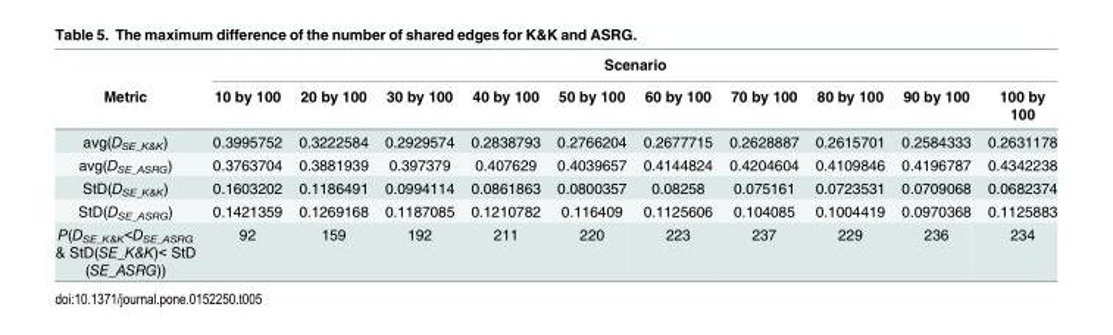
<table><thead><tr><td rowspan="2">Metric</td><td colspan="10">Scenario</td></tr><tr><td>10 by 100</td><td>20 by 100</td><td>30 by 100</td><td>40 by 100</td><td>50 by 100</td><td>60 by 100</td><td>70 by 100</td><td>80 by 100</td><td>90 by 100</td><td>100 by 100</td></tr></thead><tbody><tr><td>avg(D<sub>SE_K&amp;K</sub>)</td><td>0.3995752</td><td>0.3222584</td><td>0.2929574</td><td>0.2838793</td><td>0.2766204</td><td>0.2677715</td><td>0.2628887</td><td>0.2615701</td><td>0.2584333</td><td>0.2631178</td></tr><tr><td>avg(D<sub>SE_ASRG</sub>)</td><td>0.3763704</td><td>0.3881939</td><td>0.397379</td><td>0.407629</td><td>0.4039657</td><td>0.4144824</td><td>0.4204604</td><td>0.4109846</td><td>0.4196787</td><td>0.4342238</td></tr><tr><td>StD(D<sub>SE_K&amp;K</sub>)</td><td>0.1603202</td><td>0.1186491</td><td>0.0994114</td><td>0.0861863</td><td>0.0800357</td><td>0.08258</td><td>0.075161</td><td>0.0723531</td><td>0.0709068</td><td>0.0682374</td></tr><tr><td>StD(D<sub>SE_ASRG</sub>)</td><td>0.1421359</td><td>0.1269168</td><td>0.1187085</td><td>0.1210782</td><td>0.116409</td><td>0.1125606</td><td>0.104085</td><td>0.1004419</td><td>0.0970368</td><td>0.1125883</td></tr><tr><td>P(D<sub>SE_K&amp;K</sub>&lt;D<sub>SE_ASRG</sub> &amp; StD(SE_K&amp;K)&lt; StD (SE_ASRG))</td><td>92</td><td>159</td><td>192</td><td>211</td><td>220</td><td>223</td><td>237</td><td>229</td><td>236</td><td>234</td></tr></tbody></table>